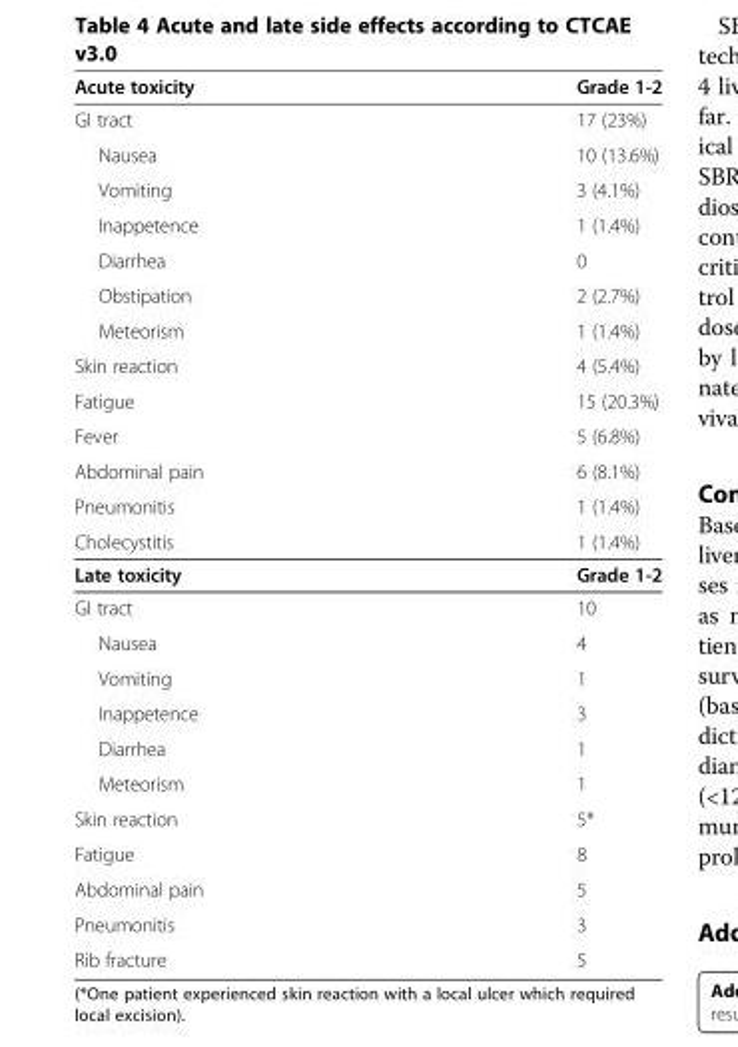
<table><thead><tr><td>Acute toxicity</td><td>Grade 1-2</td></tr></thead><tbody><tr><td>GI tract</td><td>17 (23%)</td></tr><tr><td>Nausea</td><td>10 (13.6%)</td></tr><tr><td>Vomiting</td><td>3 (4.1%)</td></tr><tr><td>Inappetence</td><td>1 (1.4%)</td></tr><tr><td>Diarrhea</td><td>0</td></tr><tr><td>Obstipation</td><td>2 (2.7%)</td></tr><tr><td>Meteorism</td><td>1 (1.4%)</td></tr><tr><td>Skin reaction</td><td>4 (5.4%)</td></tr><tr><td>Fatigue</td><td>15 (20.3%)</td></tr><tr><td>Fever</td><td>5 (6.8%)</td></tr><tr><td>Abdominal pain</td><td>6 (8.1%)</td></tr><tr><td>Pneumonitis</td><td>1 (1.4%)</td></tr><tr><td>Cholecystitis</td><td>1 (1.4%)</td></tr><tr><td>Late toxicity</td><td>Grade 1-2</td></tr><tr><td>GI tract</td><td>10</td></tr><tr><td>Nausea</td><td>4</td></tr><tr><td>Vomiting</td><td>1</td></tr><tr><td>Inappetence</td><td>3</td></tr><tr><td>Diarrhea</td><td>1</td></tr><tr><td>Meteorism</td><td>1</td></tr><tr><td>Skin reaction</td><td>5*</td></tr><tr><td>Fatigue</td><td>8</td></tr><tr><td>Abdominal pain</td><td>5</td></tr><tr><td>Pneumonitis</td><td>3</td></tr><tr><td>Rib fracture</td><td>5</td></tr></tbody></table>